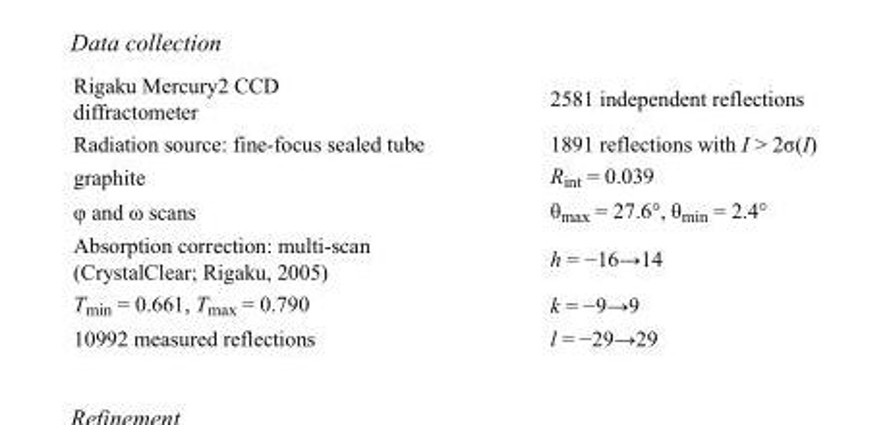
<table><tbody><tr><td>Rigaku Mercury2 CCD diffractometer</td><td>2581 independent reflections</td></tr><tr><td>Radiation source: fine-focus sealed tube</td><td>1891 reflections with I &gt; 2σ(I)</td></tr><tr><td>graphite</td><td>R<sub>int</sub> = 0.039</td></tr><tr><td>φ and ω scans</td><td>θ<sub>max</sub> = 27.6°, θ<sub>min</sub> = 2.4°</td></tr><tr><td>Absorption correction: multi-scan (CrystalClear; Rigaku, 2005)</td><td>h = −16→14</td></tr><tr><td>T<sub>min</sub> = 0.661, T<sub>max</sub> = 0.790</td><td>k = −9→9</td></tr><tr><td>10992 measured reflections</td><td>l = −29→29</td></tr></tbody></table>